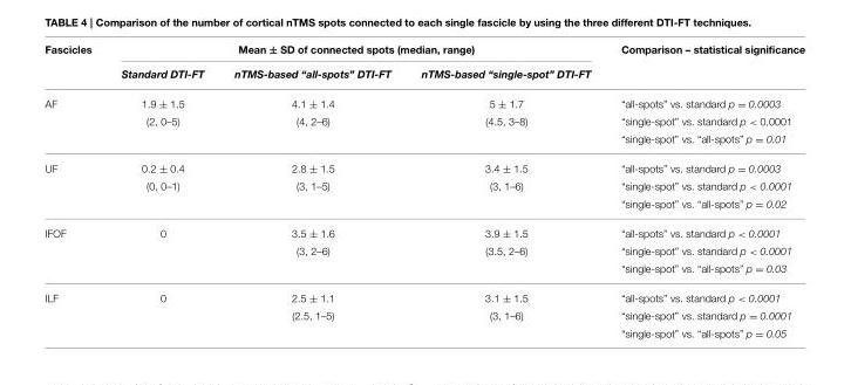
<table><thead><tr><td rowspan="2">Fascicles</td><td colspan="3">Mean ± SD of connected spots (median, range)</td><td rowspan="2">Comparison – statistical significance</td></tr><tr><td>Standard DTI-FT</td><td>nTMS-based “all-spots” DTI-FT</td><td>nTMS-based “single-spot” DTI-FT</td></tr></thead><tbody><tr><td rowspan="3">AF</td><td>1.9 ± 1.5</td><td>4.1 ± 1.4</td><td>5 ± 1.7</td><td>“all-spots” vs. standard p = 0.0003</td></tr><tr><td>(2, 0–5)</td><td>(4, 2–6)</td><td>(4.5, 3–8)</td><td>“single-spot” vs. standard p &lt; 0.0001</td></tr><tr><td></td><td></td><td></td><td>“single-spot” vs. “all-spots” p = 0.01</td></tr><tr><td rowspan="3">UF</td><td>0.2 ± 0.4</td><td>2.8 ± 1.5</td><td>3.4 ± 1.5</td><td>“all-spots” vs. standard p = 0.0003</td></tr><tr><td>(0, 0–1)</td><td>(3, 1–5)</td><td>(3, 1–6)</td><td>“single-spot” vs. standard p &lt; 0.0001</td></tr><tr><td></td><td></td><td></td><td>“single-spot” vs. “all-spots” p = 0.02</td></tr><tr><td rowspan="3">IFOF</td><td>0</td><td>3.5 ± 1.6</td><td>3.9 ± 1.5</td><td>“all-spots” vs. standard p &lt; 0.0001</td></tr><tr><td></td><td>(3, 2–6)</td><td>(3.5, 2–6)</td><td>“single-spot” vs. standard p &lt; 0.0001</td></tr><tr><td></td><td></td><td></td><td>“single-spot” vs. “all-spots” p = 0.03</td></tr><tr><td rowspan="3">ILF</td><td>0</td><td>2.5 ± 1.1</td><td>3.1 ± 1.5</td><td>“all-spots” vs. standard p &lt; 0.0001</td></tr><tr><td></td><td>(2.5, 1–5)</td><td>(3, 1–6)</td><td>“single-spot” vs. standard p = 0.0001</td></tr><tr><td></td><td></td><td></td><td>“single-spot” vs. “all-spots” p = 0.05</td></tr></tbody></table>